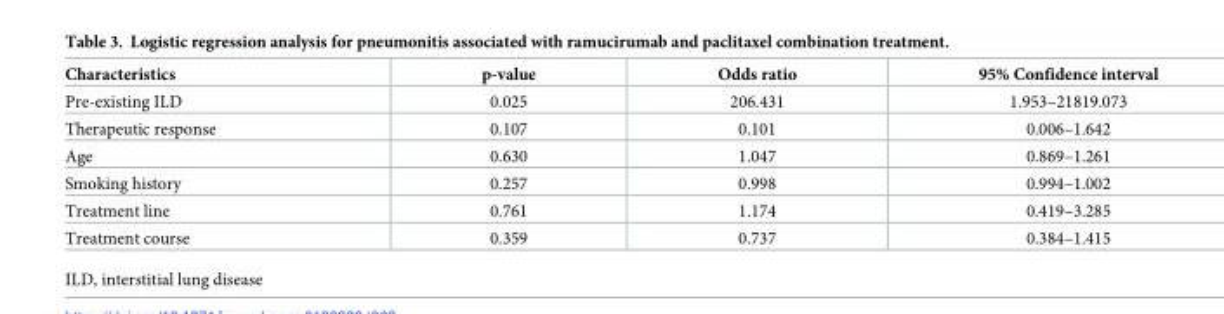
<table><thead><tr><td>Characteristics</td><td>p-value</td><td>Odds ratio</td><td>95% Confidence interval</td></tr></thead><tbody><tr><td>Pre-existing ILD</td><td>0.025</td><td>206.431</td><td>1.953–21819.073</td></tr><tr><td>Therapeutic response</td><td>0.107</td><td>0.101</td><td>0.006–1.642</td></tr><tr><td>Age</td><td>0.630</td><td>1.047</td><td>0.869–1.261</td></tr><tr><td>Smoking history</td><td>0.257</td><td>0.998</td><td>0.994–1.002</td></tr><tr><td>Treatment line</td><td>0.761</td><td>1.174</td><td>0.419–3.285</td></tr><tr><td>Treatment course</td><td>0.359</td><td>0.737</td><td>0.384–1.415</td></tr></tbody></table>